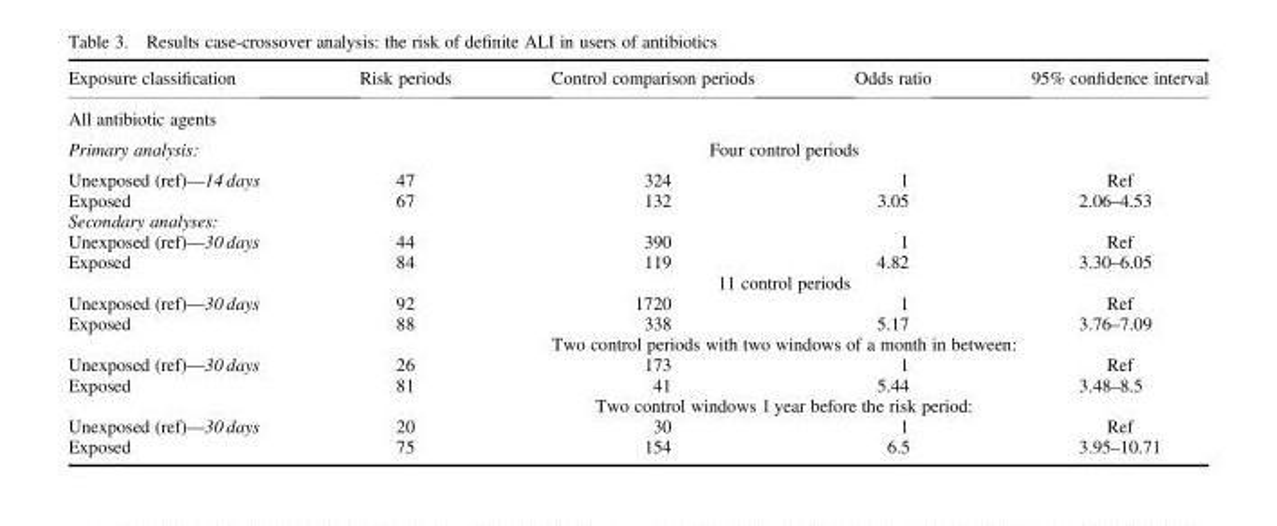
<table><thead><tr><td rowspan="3">Exposure classification All antibiotic agents Primary analysis:</td><td>Risk periods</td><td>Control comparison periods</td><td>Odds ratio</td><td>95% confidence interval</td></tr><tr><td rowspan="2" colspan="4">Four control periods</td></tr><tr></tr></thead><tbody><tr><td>Unexposed (ref)—14 days</td><td>47</td><td>324</td><td>1</td><td>Ref</td></tr><tr><td>Exposed</td><td rowspan="2">67</td><td rowspan="2">132</td><td rowspan="2">3.05</td><td rowspan="2">2.06–4.53</td></tr><tr><td>Secondary analyses:</td></tr><tr><td>Unexposed (ref)—30 days</td><td>44</td><td>390</td><td>1</td><td>Ref</td></tr><tr><td rowspan="2">Exposed</td><td>84</td><td>119</td><td>4.82</td><td>3.30–6.05</td></tr><tr><td colspan="4">11 control periods</td></tr><tr><td>Unexposed (ref)—30 days</td><td>92</td><td>1720</td><td>1</td><td>Ref</td></tr><tr><td rowspan="2">Exposed</td><td>88</td><td>338</td><td>5.17</td><td>3.76–7.09</td></tr><tr><td colspan="4">Two control periods with two windows of a month in between:</td></tr><tr><td>Unexposed (ref)—30 days</td><td>26</td><td>173</td><td>1</td><td>Ref</td></tr><tr><td rowspan="2">Exposed</td><td>81</td><td>41</td><td>5.44</td><td>3.48–8.5</td></tr><tr><td colspan="4">Two control windows 1 year before the risk period:</td></tr><tr><td>Unexposed (ref)—30 days</td><td>20</td><td>30</td><td>1</td><td>Ref</td></tr><tr><td>Exposed</td><td>75</td><td>154</td><td>6.5</td><td>3.95–10.71</td></tr></tbody></table>